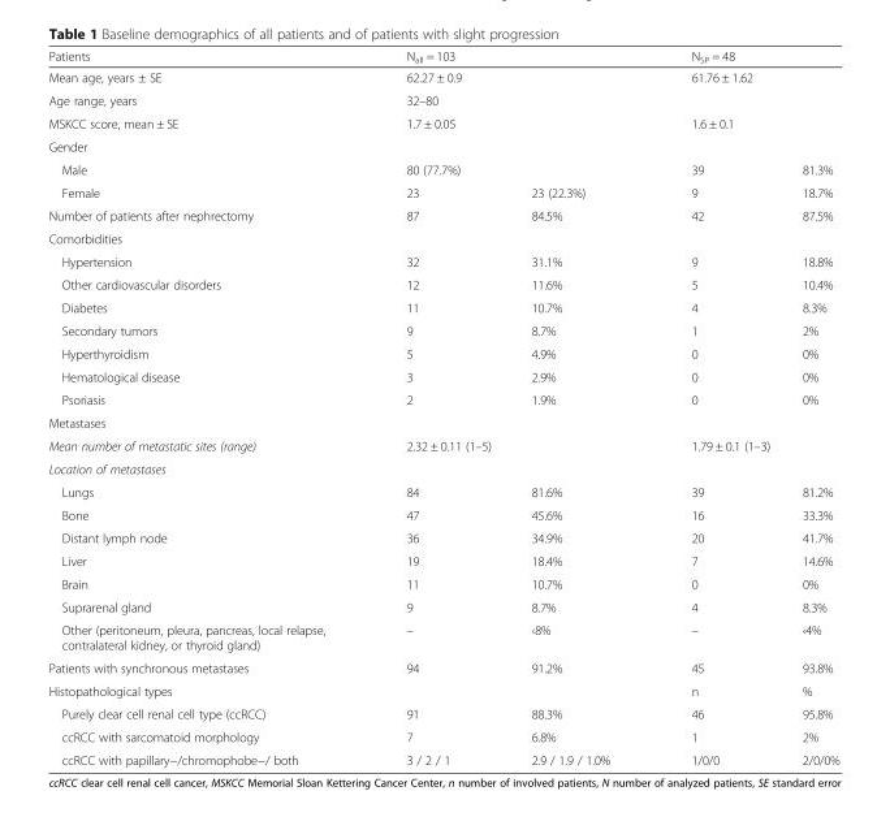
<table><thead><tr><td>Patients</td><td colspan="2">N<sub>all</sub> = 103</td><td colspan="2">N<sub>SP</sub> = 48</td></tr></thead><tbody><tr><td>Mean age, years ± SE</td><td colspan="2">62.27 ± 0.9</td><td colspan="2">61.76 ± 1.62</td></tr><tr><td>Age range, years</td><td colspan="2">32–80</td><td colspan="2"></td></tr><tr><td>MSKCC score, mean ± SE</td><td colspan="2">1.7 ± 0.05</td><td colspan="2">1.6 ± 0.1</td></tr><tr><td colspan="5">Gender</td></tr><tr><td>Male</td><td colspan="2">80 (77.7%)</td><td>39</td><td>81.3%</td></tr><tr><td>Female</td><td>23</td><td>23 (22.3%)</td><td>9</td><td>18.7%</td></tr><tr><td>Number of patients after nephrectomy</td><td>87</td><td>84.5%</td><td>42</td><td>87.5%</td></tr><tr><td colspan="5">Comorbidities</td></tr><tr><td>Hypertension</td><td>32</td><td>31.1%</td><td>9</td><td>18.8%</td></tr><tr><td>Other cardiovascular disorders</td><td>12</td><td>11.6%</td><td>5</td><td>10.4%</td></tr><tr><td>Diabetes</td><td>11</td><td>10.7%</td><td>4</td><td>8.3%</td></tr><tr><td>Secondary tumors</td><td>9</td><td>8.7%</td><td>1</td><td>2%</td></tr><tr><td>Hyperthyroidism</td><td>5</td><td>4.9%</td><td>0</td><td>0%</td></tr><tr><td>Hematological disease</td><td>3</td><td>2.9%</td><td>0</td><td>0%</td></tr><tr><td>Psoriasis</td><td>2</td><td>1.9%</td><td>0</td><td>0%</td></tr><tr><td colspan="5">Metastases</td></tr><tr><td>Mean number of metastatic sites (range)</td><td colspan="2">2.32 ± 0.11 (1–5)</td><td colspan="2">1.79 ± 0.1 (1–3)</td></tr><tr><td colspan="5">Location of metastases</td></tr><tr><td>Lungs</td><td>84</td><td>81.6%</td><td>39</td><td>81.2%</td></tr><tr><td>Bone</td><td>47</td><td>45.6%</td><td>16</td><td>33.3%</td></tr><tr><td>Distant lymph node</td><td>36</td><td>34.9%</td><td>20</td><td>41.7%</td></tr><tr><td>Liver</td><td>19</td><td>18.4%</td><td>7</td><td>14.6%</td></tr><tr><td>Brain</td><td>11</td><td>10.7%</td><td>0</td><td>0%</td></tr><tr><td>Suprarenal gland</td><td>9</td><td>8.7%</td><td>4</td><td>8.3%</td></tr><tr><td>Other (peritoneum, pleura, pancreas, local relapse, contralateral kidney, or thyroid gland)</td><td>–</td><td>‹8%</td><td>–</td><td>‹4%</td></tr><tr><td>Patients with synchronous metastases</td><td>94</td><td>91.2%</td><td>45</td><td>93.8%</td></tr><tr><td>Histopathological types</td><td></td><td></td><td>n</td><td>%</td></tr><tr><td>Purely clear cell renal cell type (ccRCC)</td><td>91</td><td>88.3%</td><td>46</td><td>95.8%</td></tr><tr><td>ccRCC with sarcomatoid morphology</td><td>7</td><td>6.8%</td><td>1</td><td>2%</td></tr><tr><td>ccRCC with papillary−/chromophobe−/ both</td><td>3 / 2 / 1</td><td>2.9 / 1.9 / 1.0%</td><td>1/0/0</td><td>2/0/0%</td></tr></tbody></table>